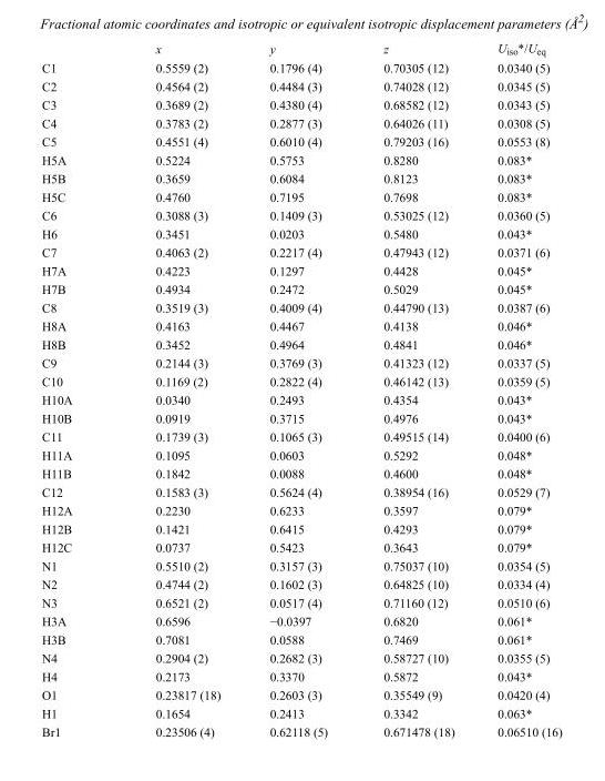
<table><thead><tr><td></td><td>x</td><td>y</td><td>z</td><td>U<sub>iso</sub>*/U<sub>eq</sub></td></tr></thead><tbody><tr><td>C1</td><td>0.5559 (2)</td><td>0.1796 (4)</td><td>0.70305 (12)</td><td>0.0340 (5)</td></tr><tr><td>C2</td><td>0.4564 (2)</td><td>0.4484 (3)</td><td>0.74028 (12)</td><td>0.0345 (5)</td></tr><tr><td>C3</td><td>0.3689 (2)</td><td>0.4380 (4)</td><td>0.68582 (12)</td><td>0.0343 (5)</td></tr><tr><td>C4</td><td>0.3783 (2)</td><td>0.2877 (3)</td><td>0.64026 (11)</td><td>0.0308 (5)</td></tr><tr><td>C5</td><td>0.4551 (4)</td><td>0.6010 (4)</td><td>0.79203 (16)</td><td>0.0553 (8)</td></tr><tr><td>H5A</td><td>0.5224</td><td>0.5753</td><td>0.8280</td><td>0.083*</td></tr><tr><td>H5B</td><td>0.3659</td><td>0.6084</td><td>0.8123</td><td>0.083*</td></tr><tr><td>H5C</td><td>0.4760</td><td>0.7195</td><td>0.7698</td><td>0.083*</td></tr><tr><td>C6</td><td>0.3088 (3)</td><td>0.1409 (3)</td><td>0.53025 (12)</td><td>0.0360 (5)</td></tr><tr><td>H6</td><td>0.3451</td><td>0.0203</td><td>0.5480</td><td>0.043*</td></tr><tr><td>C7</td><td>0.4063 (2)</td><td>0.2217 (4)</td><td>0.47943 (12)</td><td>0.0371 (6)</td></tr><tr><td>H7A</td><td>0.4223</td><td>0.1297</td><td>0.4428</td><td>0.045*</td></tr><tr><td>H7B</td><td>0.4934</td><td>0.2472</td><td>0.5029</td><td>0.045*</td></tr><tr><td>C8</td><td>0.3519 (3)</td><td>0.4009 (4)</td><td>0.44790 (13)</td><td>0.0387 (6)</td></tr><tr><td>H8A</td><td>0.4163</td><td>0.4467</td><td>0.4138</td><td>0.046*</td></tr><tr><td>H8B</td><td>0.3452</td><td>0.4964</td><td>0.4841</td><td>0.046*</td></tr><tr><td>C9</td><td>0.2144 (3)</td><td>0.3769 (3)</td><td>0.41323 (12)</td><td>0.0337 (5)</td></tr><tr><td>C10</td><td>0.1169 (2)</td><td>0.2822 (4)</td><td>0.46142 (13)</td><td>0.0359 (5)</td></tr><tr><td>H10A</td><td>0.0340</td><td>0.2493</td><td>0.4354</td><td>0.043*</td></tr><tr><td>H10B</td><td>0.0919</td><td>0.3715</td><td>0.4976</td><td>0.043*</td></tr><tr><td>C11</td><td>0.1739 (3)</td><td>0.1065 (3)</td><td>0.49515 (14)</td><td>0.0400 (6)</td></tr><tr><td>H11A</td><td>0.1095</td><td>0.0603</td><td>0.5292</td><td>0.048*</td></tr><tr><td>H11B</td><td>0.1842</td><td>0.0088</td><td>0.4600</td><td>0.048*</td></tr><tr><td>C12</td><td>0.1583 (3)</td><td>0.5624 (4)</td><td>0.38954 (16)</td><td>0.0529 (7)</td></tr><tr><td>H12A</td><td>0.2230</td><td>0.6233</td><td>0.3597</td><td>0.079*</td></tr><tr><td>H12B</td><td>0.1421</td><td>0.6415</td><td>0.4293</td><td>0.079*</td></tr><tr><td>H12C</td><td>0.0737</td><td>0.5423</td><td>0.3643</td><td>0.079*</td></tr><tr><td>N1</td><td>0.5510 (2)</td><td>0.3157 (3)</td><td>0.75037 (10)</td><td>0.0354 (5)</td></tr><tr><td>N2</td><td>0.4744 (2)</td><td>0.1602 (3)</td><td>0.64825 (10)</td><td>0.0334 (4)</td></tr><tr><td>N3</td><td>0.6521 (2)</td><td>0.0517 (4)</td><td>0.71160 (12)</td><td>0.0510 (6)</td></tr><tr><td>H3A</td><td>0.6596</td><td>−0.0397</td><td>0.6820</td><td>0.061*</td></tr><tr><td>H3B</td><td>0.7081</td><td>0.0588</td><td>0.7469</td><td>0.061*</td></tr><tr><td>N4</td><td>0.2904 (2)</td><td>0.2682 (3)</td><td>0.58727 (10)</td><td>0.0355 (5)</td></tr><tr><td>H4</td><td>0.2173</td><td>0.3370</td><td>0.5872</td><td>0.043*</td></tr><tr><td>O1</td><td>0.23817 (18)</td><td>0.2603 (3)</td><td>0.35549 (9)</td><td>0.0420 (4)</td></tr><tr><td>H1</td><td>0.1654</td><td>0.2413</td><td>0.3342</td><td>0.063*</td></tr><tr><td>Br1</td><td>0.23506 (4)</td><td>0.62118 (5)</td><td>0.671478 (18)</td><td>0.06510 (16)</td></tr></tbody></table>